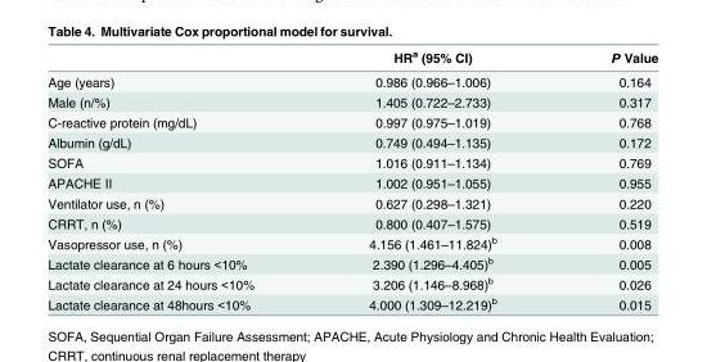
<table><thead><tr><td></td><td>HR<sup>a</sup> (95% CI)</td><td>P Value</td></tr></thead><tbody><tr><td>Age (years)</td><td>0.986 (0.966–1.006)</td><td>0.164</td></tr><tr><td>Male (n/%)</td><td>1.405 (0.722–2.733)</td><td>0.317</td></tr><tr><td>C-reactive protein (mg/dL)</td><td>0.997 (0.975–1.019)</td><td>0.768</td></tr><tr><td>Albumin (g/dL)</td><td>0.749 (0.494–1.135)</td><td>0.172</td></tr><tr><td>SOFA</td><td>1.016 (0.911–1.134)</td><td>0.769</td></tr><tr><td>APACHE II</td><td>1.002 (0.951–1.055)</td><td>0.955</td></tr><tr><td>Ventilator use, n (%)</td><td>0.627 (0.298–1.321)</td><td>0.220</td></tr><tr><td>CRRT, n (%)</td><td>0.800 (0.407–1.575)</td><td>0.519</td></tr><tr><td>Vasopressor use, n (%)</td><td>4.156 (1.461–11.824)<sup>b</sup></td><td>0.008</td></tr><tr><td>Lactate clearance at 6 hours &lt;10%</td><td>2.390 (1.296–4.405)<sup>b</sup></td><td>0.005</td></tr><tr><td>Lactate clearance at 24 hours &lt;10%</td><td>3.206 (1.146–8.968)<sup>b</sup></td><td>0.026</td></tr><tr><td>Lactate clearance at 48hours &lt;10%</td><td>4.000 (1.309–12.219)<sup>b</sup></td><td>0.015</td></tr></tbody></table>